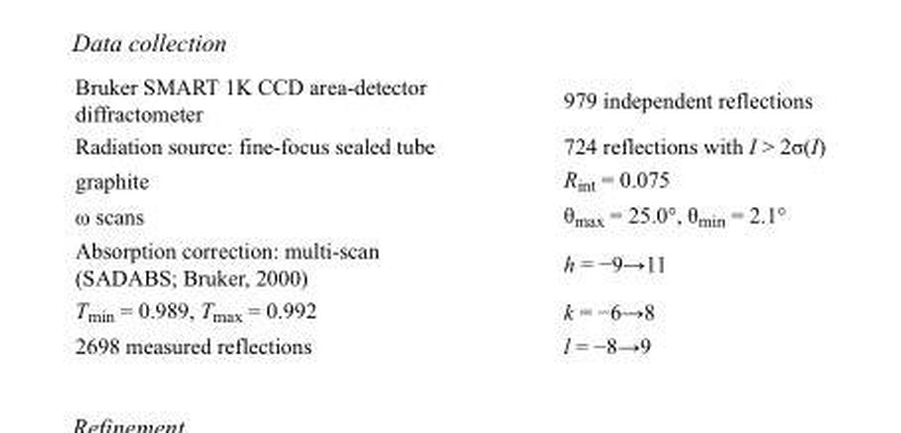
<table><tbody><tr><td>Bruker SMART 1K CCD area-detector diffractometer</td><td>979 independent reflections</td></tr><tr><td>Radiation source: fine-focus sealed tube</td><td>724 reflections with I &gt; 2σ(I)</td></tr><tr><td>graphite</td><td>R<sub>int</sub> = 0.075</td></tr><tr><td>ω scans</td><td>θ<sub>max</sub> = 25.0°, θ<sub>min</sub> = 2.1°</td></tr><tr><td>Absorption correction: multi-scan (SADABS; Bruker, 2000)</td><td>h = −9→11</td></tr><tr><td>T<sub>min</sub> = 0.989, T<sub>max</sub> = 0.992</td><td>k = −6→8</td></tr><tr><td>2698 measured reflections</td><td>l = −8→9</td></tr></tbody></table>